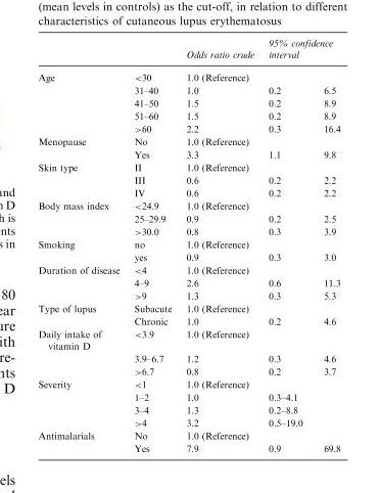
<table><thead><tr><td rowspan="2">Age</td><td rowspan="2">&lt;30</td><td rowspan="2">Odds ratio crude 1.0 (Reference)</td><td colspan="2">95% confidence interval</td></tr><tr><td></td><td></td></tr></thead><tbody><tr><td></td><td>31–40</td><td>1.0</td><td>0.2</td><td>6.5</td></tr><tr><td></td><td>41–50</td><td>1.5</td><td>0.2</td><td>8.9</td></tr><tr><td></td><td>51–60</td><td>1.5</td><td>0.2</td><td>8.9</td></tr><tr><td></td><td>&gt;60</td><td>2.2</td><td>0.3</td><td>16.4</td></tr><tr><td rowspan="2">Menopause</td><td>No</td><td>1.0 (Reference)</td><td></td><td></td></tr><tr><td>Yes</td><td>3.3</td><td>1.1</td><td>9.8</td></tr><tr><td rowspan="3">Skin type</td><td>II</td><td>1.0 (Reference)</td><td></td><td></td></tr><tr><td>III</td><td>0.6</td><td>0.2</td><td>2.2</td></tr><tr><td>IV</td><td>0.6</td><td>0.2</td><td>2.2</td></tr><tr><td rowspan="3">Body mass index</td><td>&lt;24.9</td><td>1.0 (Reference)</td><td></td><td></td></tr><tr><td>25–29.9</td><td>0.9</td><td>0.2</td><td>2.5</td></tr><tr><td>&gt;30.0</td><td>0.8</td><td>0.3</td><td>3.9</td></tr><tr><td rowspan="2">Smoking</td><td>no</td><td>1.0 (Reference)</td><td></td><td></td></tr><tr><td>yes</td><td>0.9</td><td>0.3</td><td>3.0</td></tr><tr><td rowspan="3">Duration of disease</td><td>&lt;4</td><td>1.0 (Reference)</td><td></td><td></td></tr><tr><td>4–9</td><td>2.6</td><td>0.6</td><td>11.3</td></tr><tr><td>&gt;9</td><td>1.3</td><td>0.3</td><td>5.3</td></tr><tr><td rowspan="2">Type of lupus</td><td>Subacute</td><td>1.0 (Reference)</td><td></td><td></td></tr><tr><td>Chronic</td><td>1.0</td><td>0.2</td><td>4.6</td></tr><tr><td rowspan="3">Daily intake of vitamin D</td><td>&lt;3.9</td><td>1.0 (Reference)</td><td></td><td></td></tr><tr><td>3.9–6.7</td><td>1.2</td><td>0.3</td><td>4.6</td></tr><tr><td>&gt;6.7</td><td>0.8</td><td>0.2</td><td>3.7</td></tr><tr><td rowspan="4">Severity</td><td>&lt;1</td><td>1.0 (Reference)</td><td></td><td></td></tr><tr><td>1–2</td><td>1.0</td><td>0.3–4.1</td><td></td></tr><tr><td>3–4</td><td>1.3</td><td>0.2–8.8</td><td></td></tr><tr><td>&gt;4</td><td>3.2</td><td>0.5–19.0</td><td></td></tr><tr><td rowspan="2">Antimalarials</td><td>No</td><td>1.0 (Reference)</td><td></td><td></td></tr><tr><td>Yes</td><td>7.9</td><td>0.9</td><td>69.8</td></tr></tbody></table>